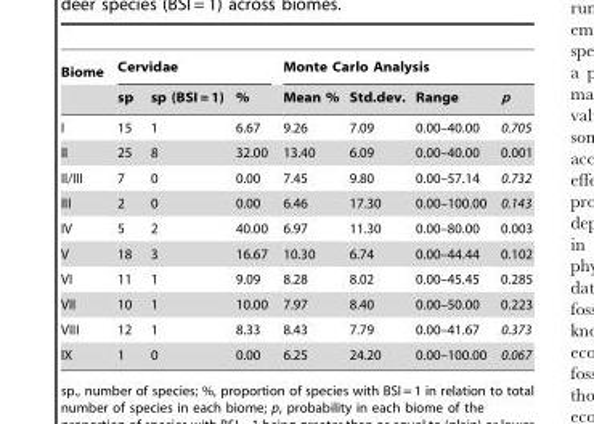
<table><thead><tr><td rowspan="2">Biome</td><td colspan="3">Cervidae</td><td colspan="4">Monte Carlo Analysis</td></tr><tr><td>sp</td><td>sp (BSI = 1)</td><td>%</td><td>Mean %</td><td>Std.dev.</td><td>Range</td><td>p</td></tr></thead><tbody><tr><td>I</td><td>15</td><td>1</td><td>6.67</td><td>9.26</td><td>7.09</td><td>0.00–40.00</td><td>0.705</td></tr><tr><td>II</td><td>25</td><td>8</td><td>32.00</td><td>13.40</td><td>6.09</td><td>0.00–40.00</td><td>0.001</td></tr><tr><td>II/III</td><td>7</td><td>0</td><td>0.00</td><td>7.45</td><td>9.80</td><td>0.00–57.14</td><td>0.732</td></tr><tr><td>III</td><td>2</td><td>0</td><td>0.00</td><td>6.46</td><td>17.30</td><td>0.00–100.00</td><td>0.143</td></tr><tr><td>IV</td><td>5</td><td>2</td><td>40.00</td><td>6.97</td><td>11.30</td><td>0.00–80.00</td><td>0.003</td></tr><tr><td>V</td><td>18</td><td>3</td><td>16.67</td><td>10.30</td><td>6.74</td><td>0.00–44.44</td><td>0.102</td></tr><tr><td>VI</td><td>11</td><td>1</td><td>9.09</td><td>8.28</td><td>8.02</td><td>0.00–45.45</td><td>0.285</td></tr><tr><td>VII</td><td>10</td><td>1</td><td>10.00</td><td>7.97</td><td>8.40</td><td>0.00–50.00</td><td>0.223</td></tr><tr><td>VIII</td><td>12</td><td>1</td><td>8.33</td><td>8.43</td><td>7.79</td><td>0.00–41.67</td><td>0.373</td></tr><tr><td>IX</td><td>1</td><td>0</td><td>0.00</td><td>6.25</td><td>24.20</td><td>0.00–100.00</td><td>0.067</td></tr></tbody></table>